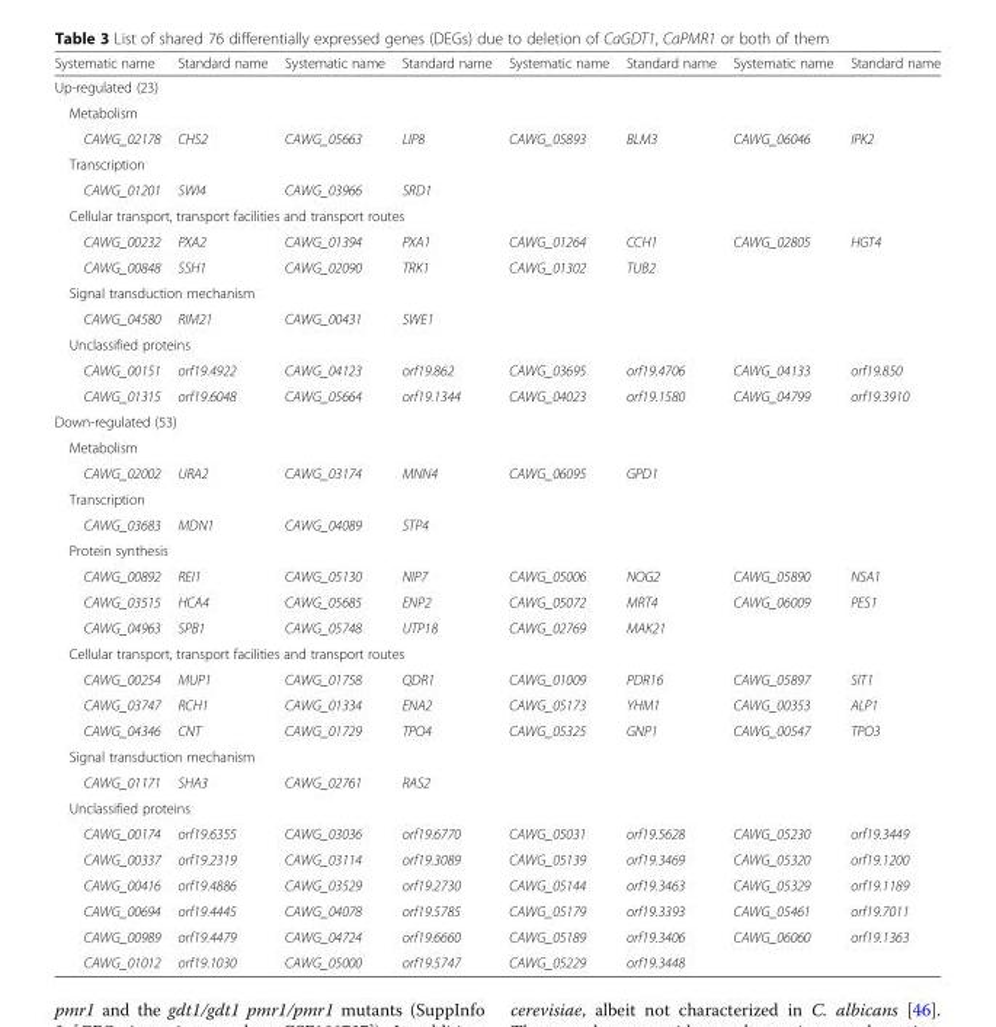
<table><thead><tr><td>Systematic name</td><td>Standard name</td><td>Systematic name</td><td>Standard name</td><td>Systematic name</td><td>Standard name</td><td>Systematic name</td><td>Standard name</td></tr></thead><tbody><tr><td colspan="8">Up-regulated (23)</td></tr><tr><td colspan="8">Metabolism</td></tr><tr><td>CAWG_02178</td><td>CHS2</td><td>CAWG_05663</td><td>LIP8</td><td>CAWG_05893</td><td>BLM3</td><td>CAWG_06046</td><td>IPK2</td></tr><tr><td colspan="8">Transcription</td></tr><tr><td>CAWG_01201</td><td>SWI4</td><td>CAWG_03966</td><td>SRD1</td><td></td><td></td><td></td><td></td></tr><tr><td colspan="8">Cellular transport, transport facilities and transport routes</td></tr><tr><td>CAWG_00232</td><td>PXA2</td><td>CAWG_01394</td><td>PXA1</td><td>CAWG_01264</td><td>CCH1</td><td>CAWG_02805</td><td>HGT4</td></tr><tr><td>CAWG_00848</td><td>SSH1</td><td>CAWG_02090</td><td>TRK1</td><td>CAWG_01302</td><td>TUB2</td><td></td><td></td></tr><tr><td colspan="8">Signal transduction mechanism</td></tr><tr><td>CAWG_04580</td><td>RIM21</td><td>CAWG_00431</td><td>SWE1</td><td></td><td></td><td></td><td></td></tr><tr><td colspan="8">Unclassified proteins</td></tr><tr><td>CAWG_00151</td><td>orf19.4922</td><td>CAWG_04123</td><td>orf19.862</td><td>CAWG_03695</td><td>orf19.4706</td><td>CAWG_04133</td><td>orf19.850</td></tr><tr><td>CAWG_01315</td><td>orf19.6048</td><td>CAWG_05664</td><td>orf19.1344</td><td>CAWG_04023</td><td>orf19.1580</td><td>CAWG_04799</td><td>orf19.3910</td></tr><tr><td colspan="8">Down-regulated (53)</td></tr><tr><td colspan="8">Metabolism</td></tr><tr><td>CAWG_02002</td><td>URA2</td><td>CAWG_03174</td><td>MNN4</td><td>CAWG_06095</td><td>GPD1</td><td></td><td></td></tr><tr><td colspan="8">Transcription</td></tr><tr><td>CAWG_03683</td><td>MDN1</td><td>CAWG_04089</td><td>STP4</td><td></td><td></td><td></td><td></td></tr><tr><td colspan="8">Protein synthesis</td></tr><tr><td>CAWG_00892</td><td>REI1</td><td>CAWG_05130</td><td>NIP7</td><td>CAWG_05006</td><td>NOG2</td><td>CAWG_05890</td><td>NSA1</td></tr><tr><td>CAWG_03515</td><td>HCA4</td><td>CAWG_05685</td><td>ENP2</td><td>CAWG_05072</td><td>MRT4</td><td>CAWG_06009</td><td>PES1</td></tr><tr><td>CAWG_04963</td><td>SPB1</td><td>CAWG_05748</td><td>UTP18</td><td>CAWG_02769</td><td>MAK21</td><td></td><td></td></tr><tr><td colspan="8">Cellular transport, transport facilities and transport routes</td></tr><tr><td>CAWG_00254</td><td>MUP1</td><td>CAWG_01758</td><td>QDR1</td><td>CAWG_01009</td><td>PDR16</td><td>CAWG_05897</td><td>SIT1</td></tr><tr><td>CAWG_03747</td><td>RCH1</td><td>CAWG_01334</td><td>ENA2</td><td>CAWG_05173</td><td>YHM1</td><td>CAWG_00353</td><td>ALP1</td></tr><tr><td>CAWG_04346</td><td>CNT</td><td>CAWG_01729</td><td>TPO4</td><td>CAWG_05325</td><td>GNP1</td><td>CAWG_00547</td><td>TPO3</td></tr><tr><td colspan="8">Signal transduction mechanism</td></tr><tr><td>CAWG_01171</td><td>SHA3</td><td>CAWG_02761</td><td>RAS2</td><td></td><td></td><td></td><td></td></tr><tr><td colspan="8">Unclassified proteins</td></tr><tr><td>CAWG_00174</td><td>orf19.6355</td><td>CAWG_03036</td><td>orf19.6770</td><td>CAWG_05031</td><td>orf19.5628</td><td>CAWG_05230</td><td>orf19.3449</td></tr><tr><td>CAWG_00337</td><td>orf19.2319</td><td>CAWG_03114</td><td>orf19.3089</td><td>CAWG_05139</td><td>orf19.3469</td><td>CAWG_05320</td><td>orf19.1200</td></tr><tr><td>CAWG_00416</td><td>orf19.4886</td><td>CAWG_03529</td><td>orf19.2730</td><td>CAWG_05144</td><td>orf19.3463</td><td>CAWG_05329</td><td>orf19.1189</td></tr><tr><td>CAWG_00694</td><td>orf19.4445</td><td>CAWG_04078</td><td>orf19.5785</td><td>CAWG_05179</td><td>orf19.3393</td><td>CAWG_05461</td><td>orf19.7011</td></tr><tr><td>CAWG_00989</td><td>orf19.4479</td><td>CAWG_04724</td><td>orf19.6660</td><td>CAWG_05189</td><td>orf19.3406</td><td>CAWG_06060</td><td>orf19.1363</td></tr><tr><td>CAWG_01012</td><td>orf19.1030</td><td>CAWG_05000</td><td>orf19.5747</td><td>CAWG_05229</td><td>orf19.3448</td><td></td><td></td></tr></tbody></table>